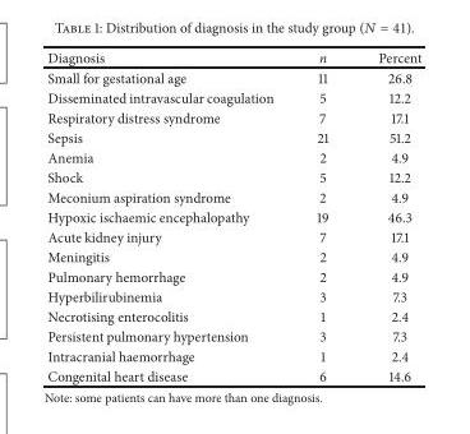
<table><thead><tr><td>Diagnosis</td><td>n</td><td>Percent</td></tr></thead><tbody><tr><td>Small for gestational age</td><td>11</td><td>26.8</td></tr><tr><td>Disseminated intravascular coagulation</td><td>5</td><td>12.2</td></tr><tr><td>Respiratory distress syndrome</td><td>7</td><td>17.1</td></tr><tr><td>Sepsis</td><td>21</td><td>51.2</td></tr><tr><td>Anemia</td><td>2</td><td>4.9</td></tr><tr><td>Shock</td><td>5</td><td>12.2</td></tr><tr><td>Meconium aspiration syndrome</td><td>2</td><td>4.9</td></tr><tr><td>Hypoxic ischaemic encephalopathy</td><td>19</td><td>46.3</td></tr><tr><td>Acute kidney injury</td><td>7</td><td>17.1</td></tr><tr><td>Meningitis</td><td>2</td><td>4.9</td></tr><tr><td>Pulmonary hemorrhage</td><td>2</td><td>4.9</td></tr><tr><td>Hyperbilirubinemia</td><td>3</td><td>7.3</td></tr><tr><td>Necrotising enterocolitis</td><td>1</td><td>2.4</td></tr><tr><td>Persistent pulmonary hypertension</td><td>3</td><td>7.3</td></tr><tr><td>Intracranial haemorrhage</td><td>1</td><td>2.4</td></tr><tr><td>Congenital heart disease</td><td>6</td><td>14.6</td></tr></tbody></table>